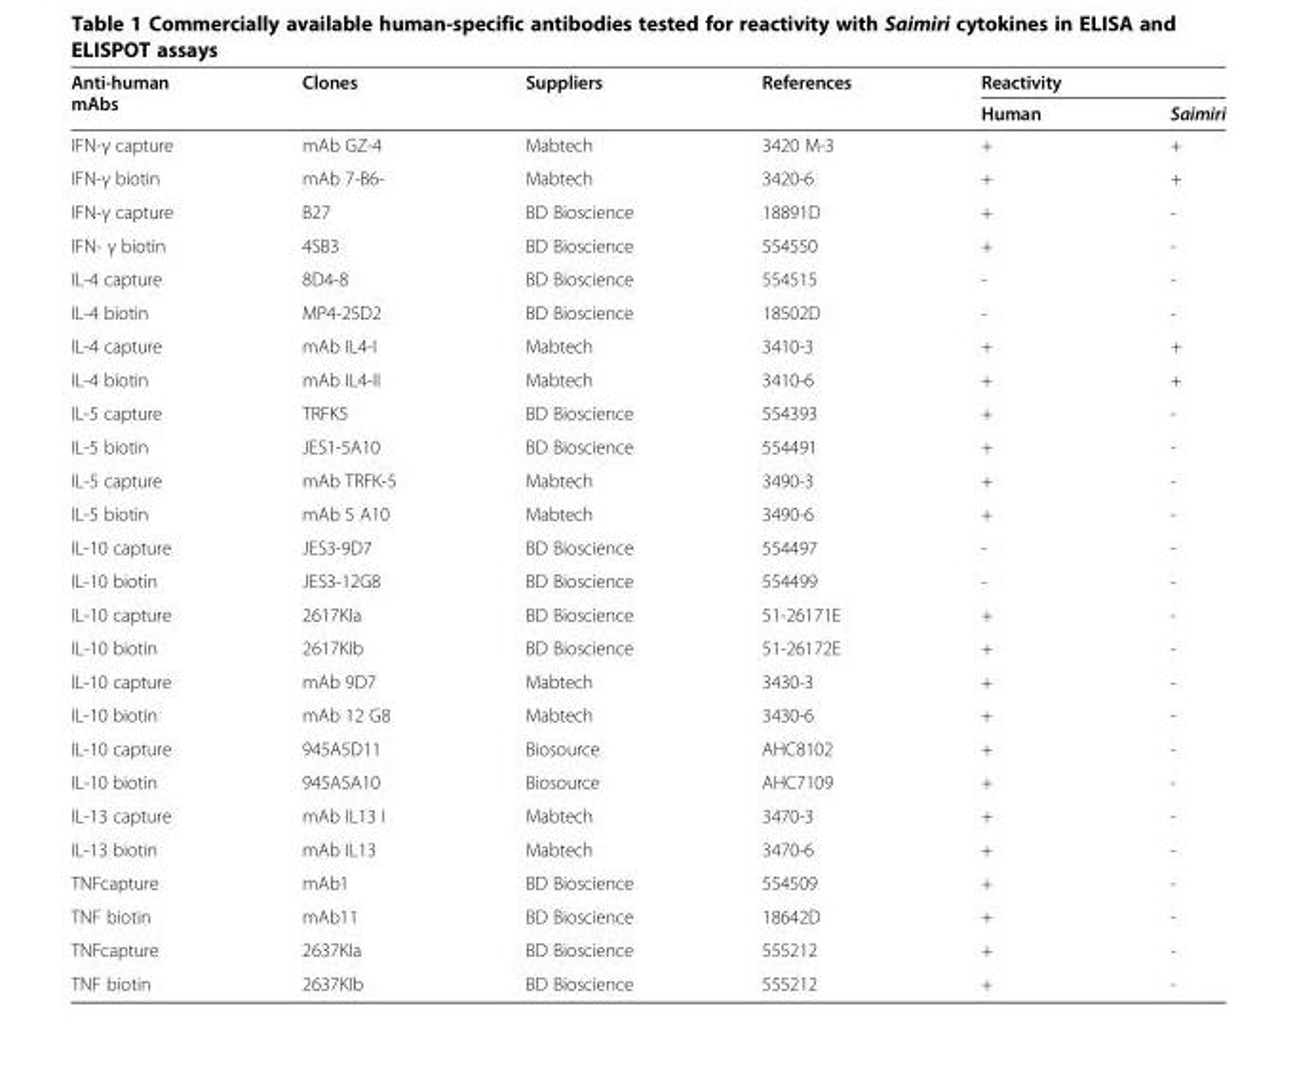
<table><thead><tr><td rowspan="2">Anti-human mAbs</td><td rowspan="2">Clones</td><td rowspan="2">Suppliers</td><td rowspan="2">References</td><td colspan="2">Reactivity</td></tr><tr><td>Human</td><td>Saimiri</td></tr></thead><tbody><tr><td>IFN-γ capture</td><td>mAb GZ-4</td><td>Mabtech</td><td>3420 M-3</td><td>+</td><td>+</td></tr><tr><td>IFN-γ biotin</td><td>mAb 7-B6-</td><td>Mabtech</td><td>3420-6</td><td>+</td><td>+</td></tr><tr><td>IFN-γ capture</td><td>B27</td><td>BD Bioscience</td><td>18891D</td><td>+</td><td>-</td></tr><tr><td>IFN- γ biotin</td><td>4SB3</td><td>BD Bioscience</td><td>554550</td><td>+</td><td>-</td></tr><tr><td>IL-4 capture</td><td>8D4-8</td><td>BD Bioscience</td><td>554515</td><td>-</td><td>-</td></tr><tr><td>IL-4 biotin</td><td>MP4-25D2</td><td>BD Bioscience</td><td>18502D</td><td>-</td><td>-</td></tr><tr><td>IL-4 capture</td><td>mAb IL4-I</td><td>Mabtech</td><td>3410-3</td><td>+</td><td>+</td></tr><tr><td>IL-4 biotin</td><td>mAb IL4-II</td><td>Mabtech</td><td>3410-6</td><td>+</td><td>+</td></tr><tr><td>IL-5 capture</td><td>TRFK5</td><td>BD Bioscience</td><td>554393</td><td>+</td><td>-</td></tr><tr><td>IL-5 biotin</td><td>JES1-5A10</td><td>BD Bioscience</td><td>554491</td><td>+</td><td>-</td></tr><tr><td>IL-5 capture</td><td>mAb TRFK-5</td><td>Mabtech</td><td>3490-3</td><td>+</td><td>-</td></tr><tr><td>IL-5 biotin</td><td>mAb 5 A10</td><td>Mabtech</td><td>3490-6</td><td>+</td><td>-</td></tr><tr><td>IL-10 capture</td><td>JES3-9D7</td><td>BD Bioscience</td><td>554497</td><td>-</td><td>-</td></tr><tr><td>IL-10 biotin</td><td>JES3-12G8</td><td>BD Bioscience</td><td>554499</td><td>-</td><td>-</td></tr><tr><td>IL-10 capture</td><td>2617KIa</td><td>BD Bioscience</td><td>51-26171E</td><td>+</td><td>-</td></tr><tr><td>IL-10 biotin</td><td>2617KIb</td><td>BD Bioscience</td><td>51-26172E</td><td>+</td><td>-</td></tr><tr><td>IL-10 capture</td><td>mAb 9D7</td><td>Mabtech</td><td>3430-3</td><td>+</td><td>-</td></tr><tr><td>IL-10 biotin</td><td>mAb 12 G8</td><td>Mabtech</td><td>3430-6</td><td>+</td><td>-</td></tr><tr><td>IL-10 capture</td><td>945A5D11</td><td>Biosource</td><td>AHC8102</td><td>+</td><td>-</td></tr><tr><td>IL-10 biotin</td><td>945A5A10</td><td>Biosource</td><td>AHC7109</td><td>+</td><td>-</td></tr><tr><td>IL-13 capture</td><td>mAb IL13 I</td><td>Mabtech</td><td>3470-3</td><td>+</td><td>-</td></tr><tr><td>IL-13 biotin</td><td>mAb IL13</td><td>Mabtech</td><td>3470-6</td><td>+</td><td>-</td></tr><tr><td>TNFcapture</td><td>mAb1</td><td>BD Bioscience</td><td>554509</td><td>+</td><td>-</td></tr><tr><td>TNF biotin</td><td>mAb11</td><td>BD Bioscience</td><td>18642D</td><td>+</td><td>-</td></tr><tr><td>TNFcapture</td><td>2637KIa</td><td>BD Bioscience</td><td>555212</td><td>+</td><td>-</td></tr><tr><td>TNF biotin</td><td>2637KIb</td><td>BD Bioscience</td><td>555212</td><td>+</td><td>-</td></tr></tbody></table>